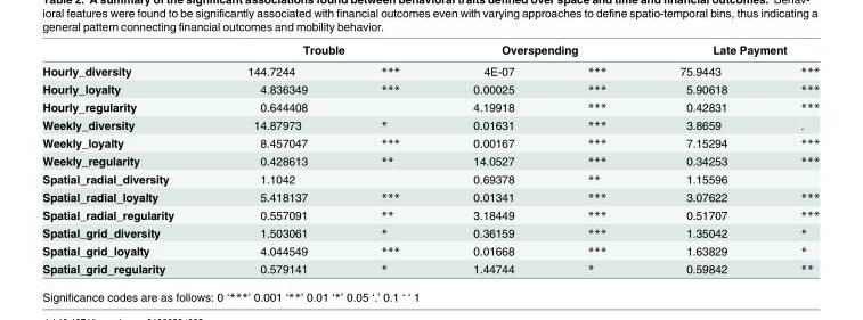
<table><thead><tr><td rowspan="2">Hourly_diversity</td><td colspan="2">Trouble</td><td colspan="2">Overspending</td><td colspan="2">Late Payment</td></tr><tr><td>144.7244</td><td>***</td><td>4E-07</td><td>***</td><td>75.9443</td><td>***</td></tr></thead><tbody><tr><td>Hourly_loyalty</td><td>4.836349</td><td>***</td><td>0.00025</td><td>***</td><td>5.90618</td><td>***</td></tr><tr><td>Hourly_regularity</td><td>0.644408</td><td></td><td>4.19918</td><td>***</td><td>0.42831</td><td>***</td></tr><tr><td>Weekly_diversity</td><td>14.87973</td><td>*</td><td>0.01631</td><td>***</td><td>3.8659</td><td>.</td></tr><tr><td>Weekly_loyalty</td><td>8.457047</td><td>***</td><td>0.00167</td><td>***</td><td>7.15294</td><td>***</td></tr><tr><td>Weekly_regularity</td><td>0.428613</td><td>**</td><td>14.0527</td><td>***</td><td>0.34253</td><td>***</td></tr><tr><td>Spatial_radial_diversity</td><td>1.1042</td><td></td><td>0.69378</td><td>**</td><td>1.15596</td><td></td></tr><tr><td>Spatial_radial_loyalty</td><td>5.418137</td><td>***</td><td>0.01341</td><td>***</td><td>3.07622</td><td>***</td></tr><tr><td>Spatial_radial_regularity</td><td>0.557091</td><td>**</td><td>3.18449</td><td>***</td><td>0.51707</td><td>***</td></tr><tr><td>Spatial_grid_diversity</td><td>1.503061</td><td>*</td><td>0.36159</td><td>***</td><td>1.35042</td><td>*</td></tr><tr><td>Spatial_grid_loyalty</td><td>4.044549</td><td>***</td><td>0.01668</td><td>***</td><td>1.63829</td><td>*</td></tr><tr><td>Spatial_grid_regularity</td><td>0.579141</td><td>*</td><td>1.44744</td><td>*</td><td>0.59842</td><td>**</td></tr></tbody></table>